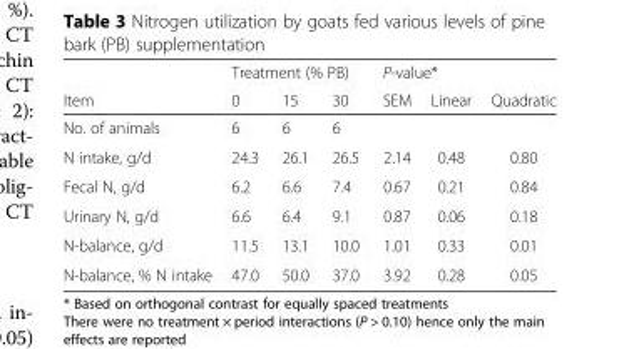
<table><thead><tr><td rowspan="2">Item</td><td colspan="3">Treatment (% PB)</td><td colspan="3">P-value*</td></tr><tr><td>0</td><td>15</td><td>30</td><td>SEM</td><td>Linear</td><td>Quadratic</td></tr></thead><tbody><tr><td>No. of animals</td><td>6</td><td>6</td><td>6</td><td></td><td></td><td></td></tr><tr><td>N intake, g/d</td><td>24.3</td><td>26.1</td><td>26.5</td><td>2.14</td><td>0.48</td><td>0.80</td></tr><tr><td>Fecal N, g/d</td><td>6.2</td><td>6.6</td><td>7.4</td><td>0.67</td><td>0.21</td><td>0.84</td></tr><tr><td>Urinary N, g/d</td><td>6.6</td><td>6.4</td><td>9.1</td><td>0.87</td><td>0.06</td><td>0.18</td></tr><tr><td>N-balance, g/d</td><td>11.5</td><td>13.1</td><td>10.0</td><td>1.01</td><td>0.33</td><td>0.01</td></tr><tr><td>N-balance, % N intake</td><td>47.0</td><td>50.0</td><td>37.0</td><td>3.92</td><td>0.28</td><td>0.05</td></tr></tbody></table>